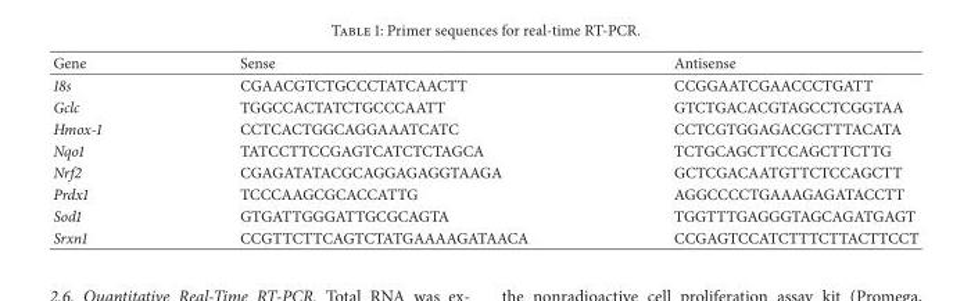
<table><thead><tr><td>Gene</td><td>Sense</td><td>Antisense</td></tr></thead><tbody><tr><td>18s</td><td>CGAACGTCTGCCCTATCAACTT</td><td>CCGGAATCGAACCCTGATT</td></tr><tr><td>Gclc</td><td>TGGCCACTATCTGCCCAATT</td><td>GTCTGACACGTAGCCTCGGTAA</td></tr><tr><td>Hmox-1</td><td>CCTCACTGGCAGGAAATCATC</td><td>CCTCGTGGAGACGCTTTACATA</td></tr><tr><td>Nqo1</td><td>TATCCTTCCGAGTCATCTCTAGCA</td><td>TCTGCAGCTTCCAGCTTCTTG</td></tr><tr><td>Nrf2</td><td>CGAGATATACGCAGGAGAGGTAAGA</td><td>GCTCGACAATGTTCTCCAGCTT</td></tr><tr><td>Prdx1</td><td>TCCCAAGCGCACCATTG</td><td>AGGCCCCTGAAAGAGATACCTT</td></tr><tr><td>Sod1</td><td>GTGATTGGGATTGCGCAGTA</td><td>TGGTTTGAGGGTAGCAGATGAGT</td></tr><tr><td>Srxn1</td><td>CCGTTCTTCAGTCTATGAAAAGATAACA</td><td>CCGAGTCCATCTTTCTTACTTCCT</td></tr></tbody></table>